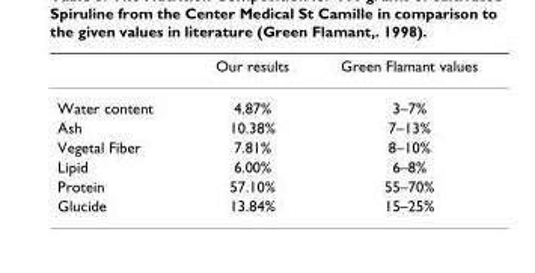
<table><thead><tr><td></td><td>Our results</td><td>Green Flamant values</td></tr></thead><tbody><tr><td>Water content</td><td>4.87%</td><td>3–7%</td></tr><tr><td>Ash</td><td>10.38%</td><td>7–13%</td></tr><tr><td>Vegetal Fiber</td><td>7.81%</td><td>8–10%</td></tr><tr><td>Lipid</td><td>6.00%</td><td>6–8%</td></tr><tr><td>Protein</td><td>57.10%</td><td>55–70%</td></tr><tr><td>Glucide</td><td>13.84%</td><td>15–25%</td></tr></tbody></table>